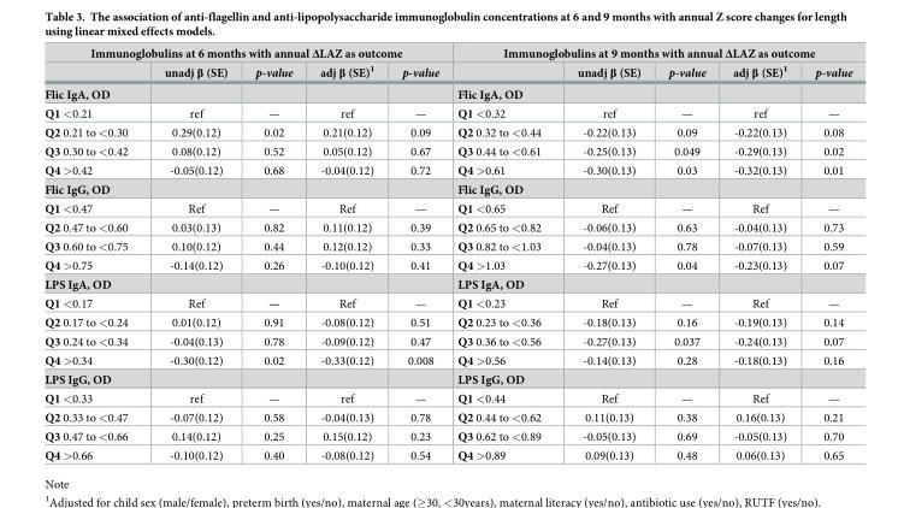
<table><thead><tr><td colspan="5">Immunoglobulins at 6 months with annual ΔLAZ as outcome</td><td colspan="5">Immunoglobulins at 9 months with annual ΔLAZ as outcome</td></tr><tr><td></td><td>unadj β (SE)</td><td>p-value</td><td>adj β (SE)<sup>1</sup></td><td>p-value</td><td></td><td>unadj β (SE)</td><td>p-value</td><td>adj β (SE)<sup>1</sup></td><td>p-value</td></tr></thead><tbody><tr><td>Flic IgA, OD</td><td></td><td></td><td></td><td></td><td>Flic IgA, OD</td><td></td><td></td><td></td><td></td></tr><tr><td>Q1 &lt;0.21</td><td>ref</td><td>—</td><td>ref</td><td>—</td><td>Q1 &lt;0.32</td><td>ref</td><td>—</td><td>ref</td><td>—</td></tr><tr><td>Q2 0.21 to &lt;0.30</td><td>0.29(0.12)</td><td>0.02</td><td>0.21(0.12)</td><td>0.09</td><td>Q2 0.32 to &lt;0.44</td><td>-0.22(0.13)</td><td>0.09</td><td>-0.22(0.13)</td><td>0.08</td></tr><tr><td>Q3 0.30 to &lt;0.42</td><td>0.08(0.12)</td><td>0.52</td><td>0.05(0.12)</td><td>0.67</td><td>Q3 0.44 to &lt;0.61</td><td>-0.25(0.13)</td><td>0.049</td><td>-0.29(0.13)</td><td>0.02</td></tr><tr><td>Q4 &gt;0.42</td><td>-0.05(0.12)</td><td>0.68</td><td>-0.04(0.12)</td><td>0.72</td><td>Q4 &gt;0.61</td><td>-0.30(0.13)</td><td>0.03</td><td>-0.32(0.13)</td><td>0.01</td></tr><tr><td>Flic IgG, OD</td><td></td><td></td><td></td><td></td><td>Flic IgG, OD</td><td></td><td></td><td></td><td></td></tr><tr><td>Q1 &lt;0.47</td><td>Ref</td><td>—</td><td>Ref</td><td>—</td><td>Q1 &lt;0.65</td><td>Ref</td><td>—</td><td>Ref</td><td>—</td></tr><tr><td>Q2 0.47 to &lt;0.60</td><td>0.03(0.13)</td><td>0.82</td><td>0.11(0.12)</td><td>0.39</td><td>Q2 0.65 to &lt;0.82</td><td>-0.06(0.13)</td><td>0.63</td><td>-0.04(0.13)</td><td>0.73</td></tr><tr><td>Q3 0.60 to &lt;0.75</td><td>0.10(0.12)</td><td>0.44</td><td>0.12(0.12)</td><td>0.33</td><td>Q3 0.82 to &lt;1.03</td><td>-0.04(0.13)</td><td>0.78</td><td>-0.07(0.13)</td><td>0.59</td></tr><tr><td>Q4 &gt;0.75</td><td>-0.14(0.12)</td><td>0.26</td><td>-0.10(0.12)</td><td>0.41</td><td>Q4 &gt;1.03</td><td>-0.27(0.13)</td><td>0.04</td><td>-0.23(0.13)</td><td>0.07</td></tr><tr><td>LPS IgA, OD</td><td></td><td></td><td></td><td></td><td>LPS IgA, OD</td><td></td><td></td><td></td><td></td></tr><tr><td>Q1 &lt;0.17</td><td>Ref</td><td>—</td><td>Ref</td><td>—</td><td>Q1 &lt;0.23</td><td>Ref</td><td>—</td><td>Ref</td><td>—</td></tr><tr><td>Q2 0.17 to &lt;0.24</td><td>0.01(0.12)</td><td>0.91</td><td>-0.08(0.12)</td><td>0.51</td><td>Q2 0.23 to &lt;0.36</td><td>-0.18(0.13)</td><td>0.16</td><td>-0.19(0.13)</td><td>0.14</td></tr><tr><td>Q3 0.24 to &lt;0.34</td><td>-0.04(0.13)</td><td>0.78</td><td>-0.09(0.12)</td><td>0.47</td><td>Q3 0.36 to &lt;0.56</td><td>-0.27(0.13)</td><td>0.037</td><td>-0.24(0.13)</td><td>0.07</td></tr><tr><td>Q4 &gt;0.34</td><td>-0.30(0.12)</td><td>0.02</td><td>-0.33(0.12)</td><td>0.008</td><td>Q4 &gt;0.56</td><td>-0.14(0.13)</td><td>0.28</td><td>-0.18(0.13)</td><td>0.16</td></tr><tr><td>LPS IgG, OD</td><td></td><td></td><td></td><td></td><td>LPS IgG, OD</td><td></td><td></td><td></td><td></td></tr><tr><td>Q1 &lt;0.33</td><td>ref</td><td>—</td><td>ref</td><td>—</td><td>Q1 &lt;0.44</td><td>Ref</td><td>—</td><td>Ref</td><td>—</td></tr><tr><td>Q2 0.33 to &lt;0.47</td><td>-0.07(0.12)</td><td>0.58</td><td>-0.04(0.13)</td><td>0.78</td><td>Q2 0.44 to &lt;0.62</td><td>0.11(0.13)</td><td>0.38</td><td>0.16(0.13)</td><td>0.21</td></tr><tr><td>Q3 0.47 to &lt;0.66</td><td>0.14(0.12)</td><td>0.25</td><td>0.15(0.12)</td><td>0.23</td><td>Q3 0.62 to &lt;0.89</td><td>-0.05(0.13)</td><td>0.69</td><td>-0.05(0.13)</td><td>0.70</td></tr><tr><td>Q4 &gt;0.66</td><td>-0.10(0.12)</td><td>0.40</td><td>-0.08(0.12)</td><td>0.54</td><td>Q4 &gt;0.89</td><td>0.09(0.13)</td><td>0.48</td><td>0.06(0.13)</td><td>0.65</td></tr></tbody></table>